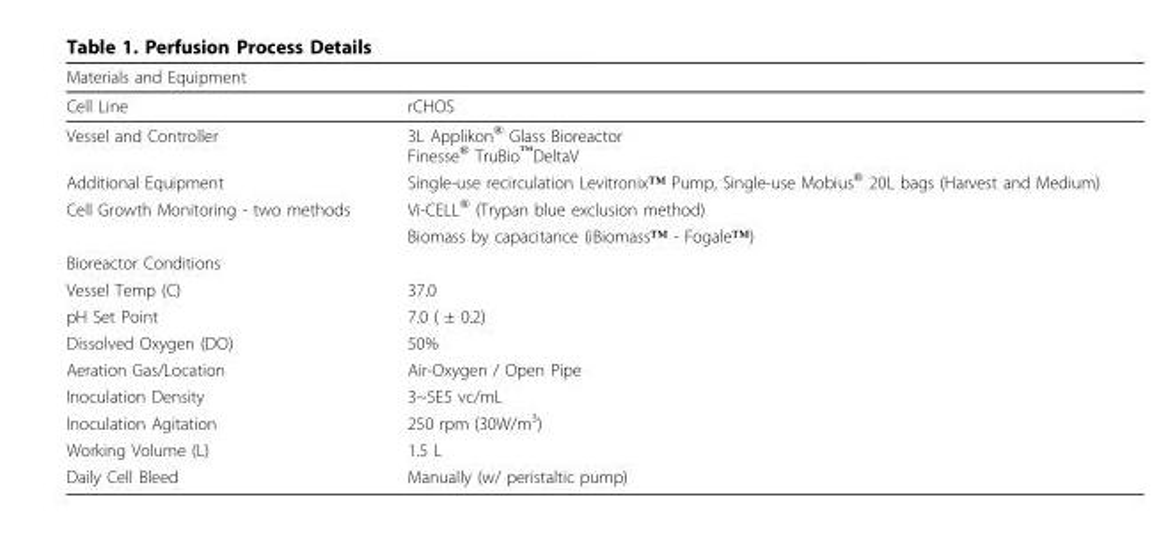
<table><thead><tr><td colspan="2">Materials and Equipment</td></tr><tr><td>Cell Line</td><td>rCHOS</td></tr></thead><tbody><tr><td>Vessel and Controller</td><td>3L Applikon<sup>®</sup> Glass Bioreactor Finesse<sup>®</sup> TruBio<sup>™</sup>DeltaV</td></tr><tr><td>Additional Equipment</td><td>Single-use recirculation Levitronix™ Pump, Single-use Mobius<sup>®</sup> 20L bags (Harvest and Medium)</td></tr><tr><td rowspan="2">Cell Growth Monitoring - two methods</td><td>Vi-CELL<sup>®</sup> (Trypan blue exclusion method)</td></tr><tr><td>Biomass by capacitance (iBiomass™ - Fogale™)</td></tr><tr><td colspan="2">Bioreactor Conditions</td></tr><tr><td>Vessel Temp (C)</td><td>37.0</td></tr><tr><td>pH Set Point</td><td>7.0 ( ± 0.2)</td></tr><tr><td>Dissolved Oxygen (DO)</td><td>50%</td></tr><tr><td>Aeration Gas/Location</td><td>Air-Oxygen / Open Pipe</td></tr><tr><td>Inoculation Density</td><td>3~5E5 vc/mL</td></tr><tr><td>Inoculation Agitation</td><td>250 rpm (30W/m<sup>3</sup>)</td></tr><tr><td>Working Volume (L)</td><td>1.5 L</td></tr><tr><td>Daily Cell Bleed</td><td>Manually (w/ peristaltic pump)</td></tr></tbody></table>